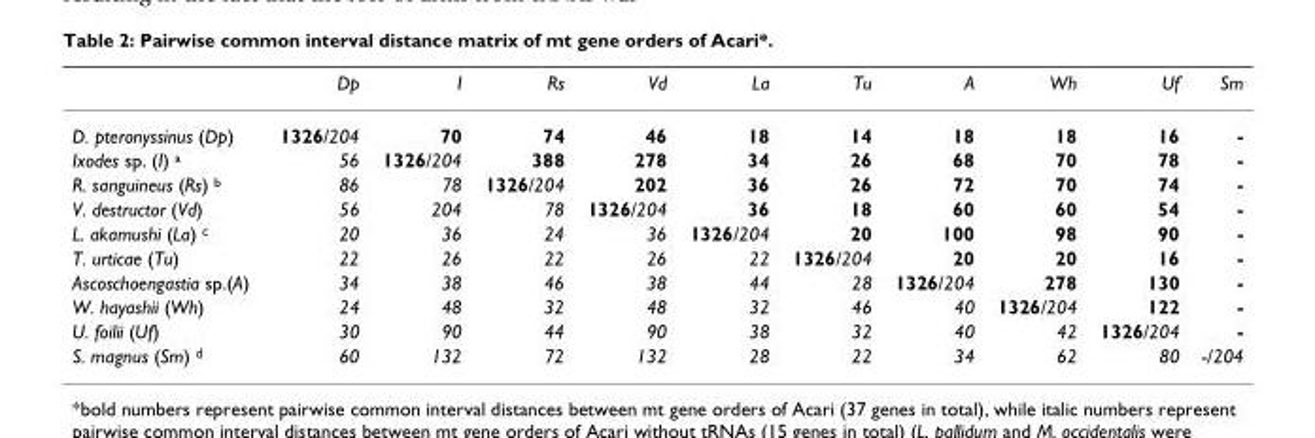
<table><thead><tr><td></td><td>Dp</td><td>I</td><td>Rs</td><td>Vd</td><td>La</td><td>Tu</td><td>A</td><td>Wh</td><td>Uf</td><td>Sm</td></tr></thead><tbody><tr><td>D. pteronyssinus (Dp)</td><td>1326/204</td><td>70</td><td>74</td><td>46</td><td>18</td><td>14</td><td>18</td><td>18</td><td>16</td><td>-</td></tr><tr><td>Ixodes sp. (I) <sup>a</sup></td><td>56</td><td>1326/204</td><td>388</td><td>278</td><td>34</td><td>26</td><td>68</td><td>70</td><td>78</td><td>-</td></tr><tr><td>R. sanguineus (Rs) <sup>b</sup></td><td>86</td><td>78</td><td>1326/204</td><td>202</td><td>36</td><td>26</td><td>72</td><td>70</td><td>74</td><td>-</td></tr><tr><td>V. destructor (Vd)</td><td>56</td><td>204</td><td>78</td><td>1326/204</td><td>36</td><td>18</td><td>60</td><td>60</td><td>54</td><td>-</td></tr><tr><td>L. akamushi (La) <sup>c</sup></td><td>20</td><td>36</td><td>24</td><td>36</td><td>1326/204</td><td>20</td><td>100</td><td>98</td><td>90</td><td>-</td></tr><tr><td>T. urticae (Tu)</td><td>22</td><td>26</td><td>22</td><td>26</td><td>22</td><td>1326/204</td><td>20</td><td>20</td><td>16</td><td>-</td></tr><tr><td>Ascoschoengastia sp.(A)</td><td>34</td><td>38</td><td>46</td><td>38</td><td>44</td><td>28</td><td>1326/204</td><td>278</td><td>130</td><td>-</td></tr><tr><td>W. hayashii (Wh)</td><td>24</td><td>48</td><td>32</td><td>48</td><td>32</td><td>46</td><td>40</td><td>1326/204</td><td>122</td><td>-</td></tr><tr><td>U. foilii (Uf)</td><td>30</td><td>90</td><td>44</td><td>90</td><td>38</td><td>32</td><td>40</td><td>42</td><td>1326/204</td><td>-</td></tr><tr><td>S. magnus (Sm) <sup>d</sup></td><td>60</td><td>132</td><td>72</td><td>132</td><td>28</td><td>22</td><td>34</td><td>62</td><td>80</td><td>-/204</td></tr></tbody></table>